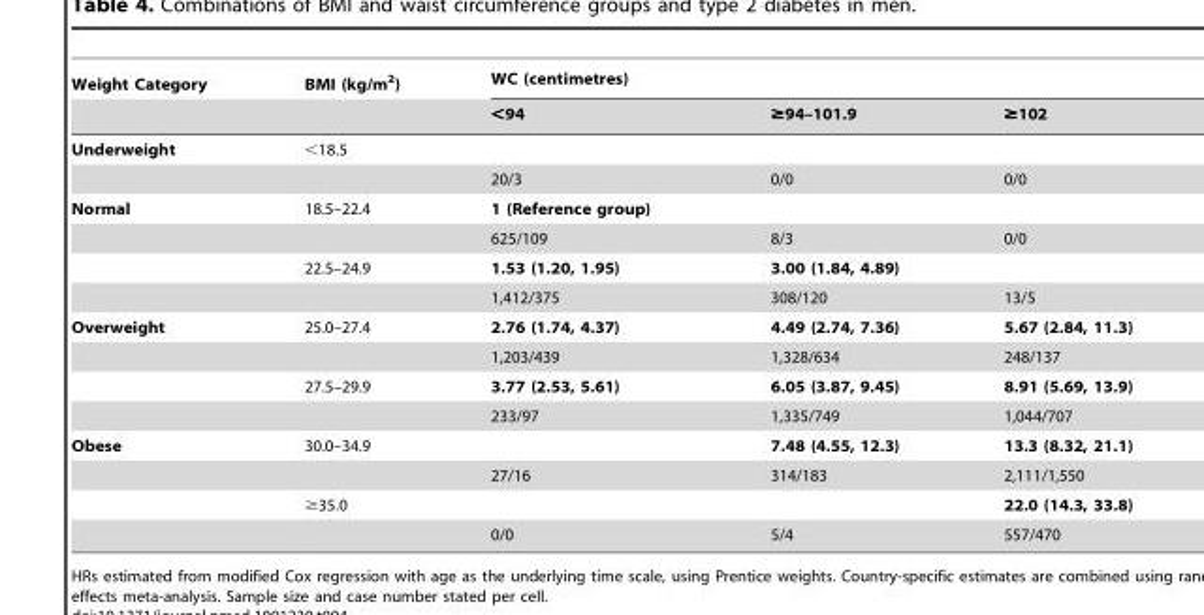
<table><thead><tr><td rowspan="2">Weight Category</td><td rowspan="2">BMI (kg/m<sup>2</sup>)</td><td colspan="3">WC (centimetres)</td></tr><tr><td>&lt;94</td><td>≥94–101.9</td><td>≥102</td></tr></thead><tbody><tr><td rowspan="2">Underweight</td><td>&lt;18.5</td><td></td><td></td><td></td></tr><tr><td></td><td>20/3</td><td>0/0</td><td>0/0</td></tr><tr><td rowspan="4">Normal</td><td>18.5–22.4</td><td>1 (Reference group)</td><td></td><td></td></tr><tr><td></td><td>625/109</td><td>8/3</td><td>0/0</td></tr><tr><td>22.5–24.9</td><td>1.53 (1.20, 1.95)</td><td>3.00 (1.84, 4.89)</td><td></td></tr><tr><td></td><td>1,412/375</td><td>308/120</td><td>13/5</td></tr><tr><td rowspan="4">Overweight</td><td>25.0–27.4</td><td>2.76 (1.74, 4.37)</td><td>4.49 (2.74, 7.36)</td><td>5.67 (2.84, 11.3)</td></tr><tr><td></td><td>1,203/439</td><td>1,328/634</td><td>248/137</td></tr><tr><td>27.5–29.9</td><td>3.77 (2.53, 5.61)</td><td>6.05 (3.87, 9.45)</td><td>8.91 (5.69, 13.9)</td></tr><tr><td></td><td>233/97</td><td>1,335/749</td><td>1,044/707</td></tr><tr><td rowspan="4">Obese</td><td>30.0–34.9</td><td></td><td>7.48 (4.55, 12.3)</td><td>13.3 (8.32, 21.1)</td></tr><tr><td></td><td>27/16</td><td>314/183</td><td>2,111/1,550</td></tr><tr><td>≥35.0</td><td></td><td></td><td>22.0 (14.3, 33.8)</td></tr><tr><td></td><td>0/0</td><td>5/4</td><td>557/470</td></tr></tbody></table>